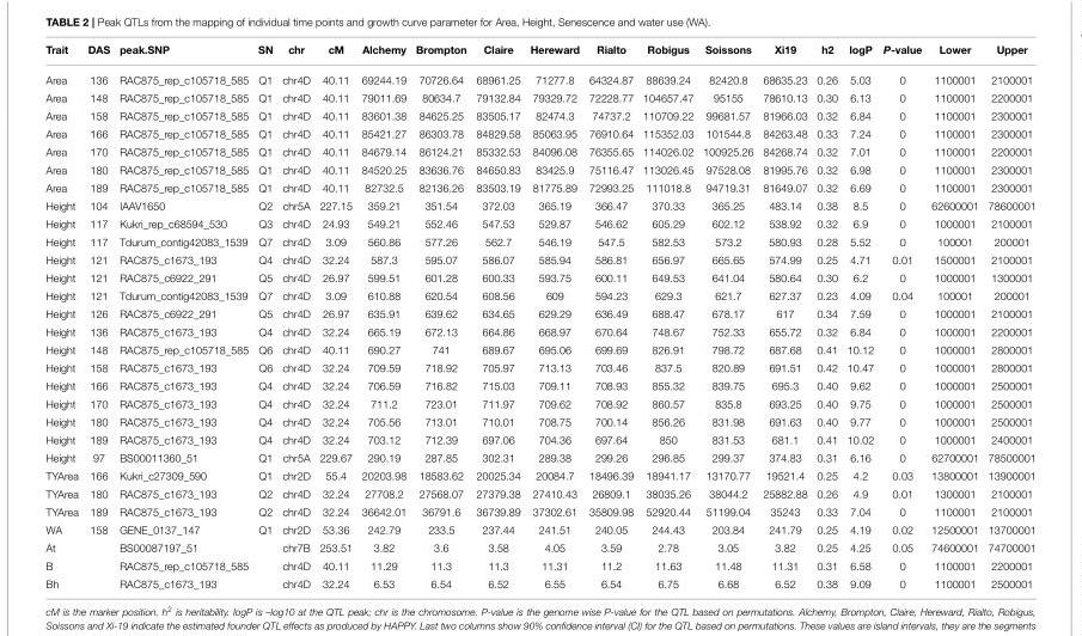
<table><thead><tr><td>Trait</td><td>DAS</td><td>peak.SNP</td><td>SN</td><td>chr</td><td>cM</td><td>Alchemy</td><td>Brompton</td><td>Claire</td><td>Hereward</td><td>Rialto</td><td>Robigus</td><td>Soissons</td><td>Xi19</td><td>h2</td><td>logP</td><td>P-value</td><td>Lower</td><td>Upper</td></tr></thead><tbody><tr><td>Area</td><td>136</td><td>RAC875_rep_c105718_585</td><td>Q1</td><td>chr4D</td><td>40.11</td><td>69244.19</td><td>70726.64</td><td>68961.25</td><td>71277.8</td><td>64324.87</td><td>88639.24</td><td>82420.8</td><td>68635.23</td><td>0.26</td><td>5.03</td><td>0</td><td>1100001</td><td>2100001</td></tr><tr><td>Area</td><td>148</td><td>RAC875_rep_c105718_585</td><td>Q1</td><td>chr4D</td><td>40.11</td><td>79011.69</td><td>80634.7</td><td>79132.84</td><td>79329.72</td><td>72228.77</td><td>104657.47</td><td>95155</td><td>78610.13</td><td>0.30</td><td>6.13</td><td>0</td><td>1100001</td><td>2200001</td></tr><tr><td>Area</td><td>158</td><td>RAC875_rep_c105718_585</td><td>Q1</td><td>chr4D</td><td>40.11</td><td>83601.38</td><td>84625.25</td><td>83505.17</td><td>82474.3</td><td>74737.2</td><td>110709.22</td><td>99681.57</td><td>81966.03</td><td>0.32</td><td>6.84</td><td>0</td><td>1100001</td><td>2300001</td></tr><tr><td>Area</td><td>166</td><td>RAC875_rep_c105718_585</td><td>Q1</td><td>chr4D</td><td>40.11</td><td>85421.27</td><td>86303.78</td><td>84829.58</td><td>85063.95</td><td>76910.64</td><td>115352.03</td><td>101544.8</td><td>84263.48</td><td>0.33</td><td>7.24</td><td>0</td><td>1100001</td><td>2300001</td></tr><tr><td>Area</td><td>170</td><td>RAC875_rep_c105718_585</td><td>Q1</td><td>chr4D</td><td>40.11</td><td>84679.14</td><td>86124.21</td><td>85332.53</td><td>84096.08</td><td>76355.65</td><td>114026.02</td><td>100925.26</td><td>84268.74</td><td>0.32</td><td>7.01</td><td>0</td><td>1100001</td><td>2200001</td></tr><tr><td>Area</td><td>180</td><td>RAC875_rep_c105718_585</td><td>Q1</td><td>chr4D</td><td>40.11</td><td>84520.25</td><td>83636.76</td><td>84650.83</td><td>83425.9</td><td>75116.47</td><td>113026.45</td><td>97528.08</td><td>81995.76</td><td>0.32</td><td>6.98</td><td>0</td><td>1100001</td><td>2300001</td></tr><tr><td>Area</td><td>189</td><td>RAC875_rep_c105718_585</td><td>Q1</td><td>chr4D</td><td>40.11</td><td>82732.5</td><td>82136.26</td><td>83503.19</td><td>81775.89</td><td>72993.25</td><td>111018.8</td><td>94719.31</td><td>81649.07</td><td>0.32</td><td>6.69</td><td>0</td><td>1100001</td><td>2300001</td></tr><tr><td>Height</td><td>104</td><td>IAAV1650</td><td>Q2</td><td>chr5A</td><td>227.15</td><td>359.21</td><td>351.54</td><td>372.03</td><td>365.19</td><td>366.47</td><td>370.33</td><td>365.25</td><td>483.14</td><td>0.38</td><td>8.5</td><td>0</td><td>62600001</td><td>78600001</td></tr><tr><td>Height</td><td>117</td><td>Kukri_rep_c68594_530</td><td>Q3</td><td>chr4D</td><td>24.93</td><td>549.21</td><td>552.46</td><td>547.53</td><td>529.87</td><td>546.62</td><td>605.29</td><td>602.12</td><td>538.92</td><td>0.32</td><td>6.9</td><td>0</td><td>1000001</td><td>2100001</td></tr><tr><td>Height</td><td>117</td><td>Tdurum_contig42083_1539</td><td>Q7</td><td>chr4D</td><td>3.09</td><td>560.86</td><td>577.26</td><td>562.7</td><td>546.19</td><td>547.5</td><td>582.53</td><td>573.2</td><td>580.93</td><td>0.28</td><td>5.52</td><td>0</td><td>100001</td><td>200001</td></tr><tr><td>Height</td><td>121</td><td>RAC875_c1673_193</td><td>Q4</td><td>chr4D</td><td>32.24</td><td>587.3</td><td>595.07</td><td>586.07</td><td>585.94</td><td>586.81</td><td>656.97</td><td>665.65</td><td>574.99</td><td>0.25</td><td>4.71</td><td>0.01</td><td>1500001</td><td>2100001</td></tr><tr><td>Height</td><td>121</td><td>RAC875_c6922_291</td><td>Q5</td><td>chr4D</td><td>26.97</td><td>599.51</td><td>601.28</td><td>600.33</td><td>593.75</td><td>600.11</td><td>649.53</td><td>641.04</td><td>580.64</td><td>0.30</td><td>6.2</td><td>0</td><td>1000001</td><td>1300001</td></tr><tr><td>Height</td><td>121</td><td>Tdurum_contig42083_1539</td><td>Q7</td><td>chr4D</td><td>3.09</td><td>610.88</td><td>620.54</td><td>608.56</td><td>609</td><td>594.23</td><td>629.3</td><td>621.7</td><td>627.37</td><td>0.23</td><td>4.09</td><td>0.04</td><td>100001</td><td>200001</td></tr><tr><td>Height</td><td>126</td><td>RAC875_c6922_291</td><td>Q5</td><td>chr4D</td><td>26.97</td><td>635.91</td><td>639.62</td><td>634.65</td><td>629.29</td><td>636.49</td><td>688.47</td><td>678.17</td><td>617</td><td>0.34</td><td>7.59</td><td>0</td><td>1000001</td><td>2100001</td></tr><tr><td>Height</td><td>136</td><td>RAC875_c1673_193</td><td>Q4</td><td>chr4D</td><td>32.24</td><td>665.19</td><td>672.13</td><td>664.86</td><td>668.97</td><td>670.64</td><td>748.67</td><td>752.33</td><td>655.72</td><td>0.32</td><td>6.84</td><td>0</td><td>1000001</td><td>2200001</td></tr><tr><td>Height</td><td>148</td><td>RAC875_rep_c105718_585</td><td>Q6</td><td>chr4D</td><td>40.11</td><td>690.27</td><td>741</td><td>689.67</td><td>695.06</td><td>699.69</td><td>826.91</td><td>798.72</td><td>687.68</td><td>0.41</td><td>10.12</td><td>0</td><td>1000001</td><td>2800001</td></tr><tr><td>Height</td><td>158</td><td>RAC875_c1673_193</td><td>Q6</td><td>chr4D</td><td>32.24</td><td>709.59</td><td>718.92</td><td>705.97</td><td>713.13</td><td>703.46</td><td>837.5</td><td>820.89</td><td>691.51</td><td>0.42</td><td>10.47</td><td>0</td><td>1000001</td><td>2800001</td></tr><tr><td>Height</td><td>166</td><td>RAC875_c1673_193</td><td>Q4</td><td>chr4D</td><td>32.24</td><td>706.59</td><td>716.82</td><td>715.03</td><td>709.11</td><td>708.93</td><td>855.32</td><td>839.75</td><td>695.3</td><td>0.40</td><td>9.62</td><td>0</td><td>1000001</td><td>2500001</td></tr><tr><td>Height</td><td>170</td><td>RAC875_c1673_193</td><td>Q4</td><td>chr4D</td><td>32.24</td><td>711.2</td><td>723.01</td><td>711.97</td><td>709.62</td><td>708.92</td><td>860.57</td><td>835.8</td><td>693.25</td><td>0.40</td><td>9.75</td><td>0</td><td>1000001</td><td>2500001</td></tr><tr><td>Height</td><td>180</td><td>RAC875_c1673_193</td><td>Q4</td><td>chr4D</td><td>32.24</td><td>705.56</td><td>713.01</td><td>710.01</td><td>708.75</td><td>700.14</td><td>856.26</td><td>831.98</td><td>691.63</td><td>0.40</td><td>9.77</td><td>0</td><td>1000001</td><td>2500001</td></tr><tr><td>Height</td><td>189</td><td>RAC875_c1673_193</td><td>Q4</td><td>chr4D</td><td>32.24</td><td>703.12</td><td>712.39</td><td>697.06</td><td>704.36</td><td>697.64</td><td>850</td><td>831.53</td><td>681.1</td><td>0.41</td><td>10.02</td><td>0</td><td>1000001</td><td>2400001</td></tr><tr><td>Height</td><td>97</td><td>BS00011360_51</td><td>Q1</td><td>chr5A</td><td>229.67</td><td>290.19</td><td>287.85</td><td>302.31</td><td>289.38</td><td>299.26</td><td>296.85</td><td>299.37</td><td>374.83</td><td>0.31</td><td>6.16</td><td>0</td><td>62700001</td><td>78500001</td></tr><tr><td>TYArea</td><td>166</td><td>Kukri_c27309_590</td><td>Q1</td><td>chr2D</td><td>55.4</td><td>20203.98</td><td>18583.62</td><td>20025.34</td><td>20084.7</td><td>18496.39</td><td>18941.17</td><td>13170.77</td><td>19521.4</td><td>0.25</td><td>4.2</td><td>0.03</td><td>13800001</td><td>13900001</td></tr><tr><td>TYArea</td><td>180</td><td>RAC875_c1673_193</td><td>Q2</td><td>chr4D</td><td>32.24</td><td>27708.2</td><td>27568.07</td><td>27379.38</td><td>27410.43</td><td>26809.1</td><td>38035.26</td><td>38044.2</td><td>25882.88</td><td>0.26</td><td>4.9</td><td>0.01</td><td>1300001</td><td>2100001</td></tr><tr><td>TYArea</td><td>189</td><td>RAC875_c1673_193</td><td>Q2</td><td>chr4D</td><td>32.24</td><td>36642.01</td><td>36791.6</td><td>36739.89</td><td>37302.61</td><td>35809.98</td><td>52920.44</td><td>51199.04</td><td>35243</td><td>0.33</td><td>7.04</td><td>0</td><td>1100001</td><td>2100001</td></tr><tr><td>WA</td><td>158</td><td>GENE_0137_147</td><td>Q1</td><td>chr2D</td><td>53.36</td><td>242.79</td><td>233.5</td><td>237.44</td><td>241.51</td><td>240.05</td><td>244.43</td><td>203.84</td><td>241.79</td><td>0.25</td><td>4.19</td><td>0.02</td><td>12500001</td><td>13700001</td></tr><tr><td>At</td><td></td><td>BS00087197_51</td><td></td><td>chr7B</td><td>253.51</td><td>3.82</td><td>3.6</td><td>3.58</td><td>4.05</td><td>3.59</td><td>2.78</td><td>3.05</td><td>3.82</td><td>0.25</td><td>4.25</td><td>0.05</td><td>74600001</td><td>74700001</td></tr><tr><td>B</td><td></td><td>RAC875_rep_c105718_585</td><td></td><td>chr4D</td><td>40.11</td><td>11.29</td><td>11.3</td><td>11.3</td><td>11.31</td><td>11.2</td><td>11.63</td><td>11.48</td><td>11.31</td><td>0.31</td><td>6.58</td><td>0</td><td>1100001</td><td>2200001</td></tr><tr><td>Bh</td><td></td><td>RAC875_c1673_193</td><td></td><td>chr4D</td><td>32.24</td><td>6.53</td><td>6.54</td><td>6.52</td><td>6.55</td><td>6.54</td><td>6.75</td><td>6.68</td><td>6.52</td><td>0.38</td><td>9.09</td><td>0</td><td>1100001</td><td>2500001</td></tr></tbody></table>